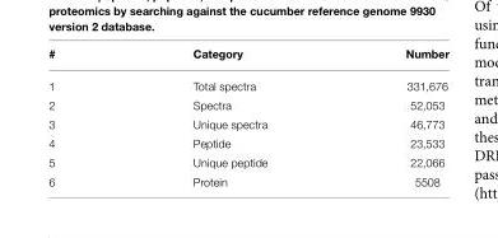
<table><thead><tr><td>#</td><td>Category</td><td>Number</td></tr></thead><tbody><tr><td>1</td><td>Total spectra</td><td>331,676</td></tr><tr><td>2</td><td>Spectra</td><td>52,053</td></tr><tr><td>3</td><td>Unique spectra</td><td>46,773</td></tr><tr><td>4</td><td>Peptide</td><td>23,533</td></tr><tr><td>5</td><td>Unique peptide</td><td>22,066</td></tr><tr><td>6</td><td>Protein</td><td>5508</td></tr></tbody></table>